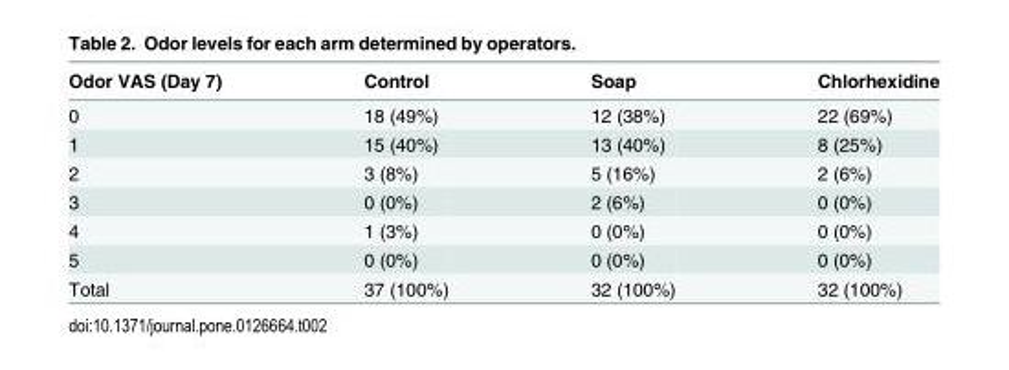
<table><thead><tr><td>Odor VAS (Day 7)</td><td>Control</td><td>Soap</td><td>Chlorhexidine</td></tr></thead><tbody><tr><td>0</td><td>18 (49%)</td><td>12 (38%)</td><td>22 (69%)</td></tr><tr><td>1</td><td>15 (40%)</td><td>13 (40%)</td><td>8 (25%)</td></tr><tr><td>2</td><td>3 (8%)</td><td>5 (16%)</td><td>2 (6%)</td></tr><tr><td>3</td><td>0 (0%)</td><td>2 (6%)</td><td>0 (0%)</td></tr><tr><td>4</td><td>1 (3%)</td><td>0 (0%)</td><td>0 (0%)</td></tr><tr><td>5</td><td>0 (0%)</td><td>0 (0%)</td><td>0 (0%)</td></tr><tr><td>Total</td><td>37 (100%)</td><td>32 (100%)</td><td>32 (100%)</td></tr></tbody></table>